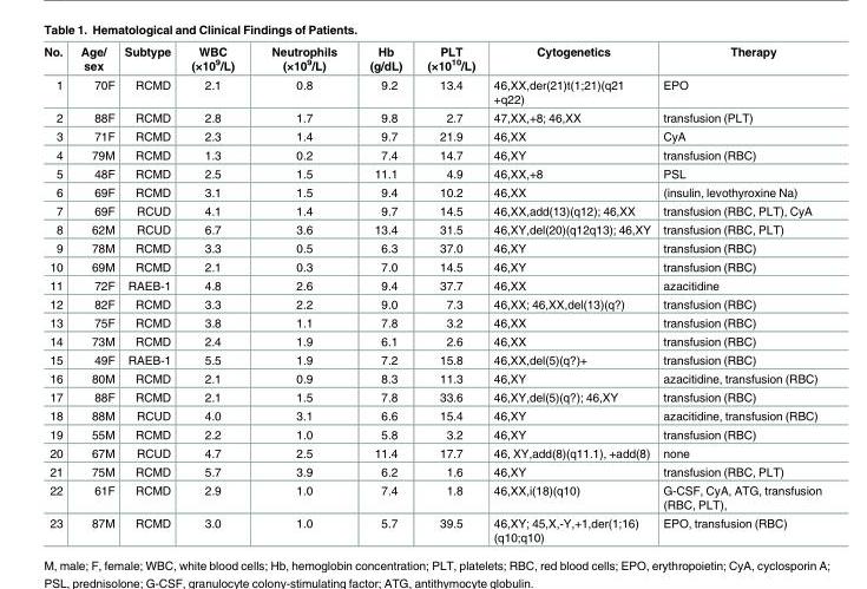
<table><thead><tr><td>No.</td><td>Age/ sex</td><td>Subtype</td><td>WBC (×10<sup>9</sup>/L)</td><td>Neutrophils (×10<sup>9</sup>/L)</td><td>Hb (g/dL)</td><td>PLT (×10<sup>10</sup>/L)</td><td>Cytogenetics</td><td>Therapy</td></tr></thead><tbody><tr><td>1</td><td>70F</td><td>RCMD</td><td>2.1</td><td>0.8</td><td>9.2</td><td>13.4</td><td>46,XX,der(21)t(1;21)(q21 +q22)</td><td>EPO</td></tr><tr><td>2</td><td>88F</td><td>RCMD</td><td>2.8</td><td>1.7</td><td>9.8</td><td>2.7</td><td>47,XX,+8; 46,XX</td><td>transfusion (PLT)</td></tr><tr><td>3</td><td>71F</td><td>RCMD</td><td>2.3</td><td>1.4</td><td>9.7</td><td>21.9</td><td>46,XX</td><td>CyA</td></tr><tr><td>4</td><td>79M</td><td>RCMD</td><td>1.3</td><td>0.2</td><td>7.4</td><td>14.7</td><td>46,XY</td><td>transfusion (RBC)</td></tr><tr><td>5</td><td>48F</td><td>RCMD</td><td>2.5</td><td>1.5</td><td>11.1</td><td>4.9</td><td>46,XX,+8</td><td>PSL</td></tr><tr><td>6</td><td>69F</td><td>RCMD</td><td>3.1</td><td>1.5</td><td>9.4</td><td>10.2</td><td>46,XX</td><td>(insulin, levothyroxine Na)</td></tr><tr><td>7</td><td>69F</td><td>RCUD</td><td>4.1</td><td>1.4</td><td>9.7</td><td>14.5</td><td>46,XX,add(13)(q12); 46,XX</td><td>transfusion (RBC, PLT), CyA</td></tr><tr><td>8</td><td>62M</td><td>RCUD</td><td>6.7</td><td>3.6</td><td>13.4</td><td>31.5</td><td>46,XY,del(20)(q12q13); 46,XY</td><td>transfusion (RBC, PLT)</td></tr><tr><td>9</td><td>78M</td><td>RCMD</td><td>3.3</td><td>0.5</td><td>6.3</td><td>37.0</td><td>46,XY</td><td>transfusion (RBC)</td></tr><tr><td>10</td><td>69M</td><td>RCMD</td><td>2.1</td><td>0.3</td><td>7.0</td><td>14.5</td><td>46,XY</td><td>transfusion (RBC)</td></tr><tr><td>11</td><td>72F</td><td>RAEB-1</td><td>4.8</td><td>2.6</td><td>9.4</td><td>37.7</td><td>46,XX</td><td>azacitidine</td></tr><tr><td>12</td><td>82F</td><td>RCMD</td><td>3.3</td><td>2.2</td><td>9.0</td><td>7.3</td><td>46,XX; 46,XX,del(13)(q?)</td><td>transfusion (RBC)</td></tr><tr><td>13</td><td>75F</td><td>RCMD</td><td>3.8</td><td>1.1</td><td>7.8</td><td>3.2</td><td>46,XX</td><td>transfusion (RBC)</td></tr><tr><td>14</td><td>73M</td><td>RCMD</td><td>2.4</td><td>1.9</td><td>6.1</td><td>2.6</td><td>46,XX</td><td>transfusion (RBC)</td></tr><tr><td>15</td><td>49F</td><td>RAEB-1</td><td>5.5</td><td>1.9</td><td>7.2</td><td>15.8</td><td>46,XX,del(5)(q?)+</td><td>transfusion (RBC)</td></tr><tr><td>16</td><td>80M</td><td>RCMD</td><td>2.1</td><td>0.9</td><td>8.3</td><td>11.3</td><td>46,XY</td><td>azacitidine, transfusion (RBC)</td></tr><tr><td>17</td><td>88F</td><td>RCMD</td><td>2.1</td><td>1.5</td><td>7.8</td><td>33.6</td><td>46,XY,del(5)(q?); 46,XY</td><td>transfusion (RBC)</td></tr><tr><td>18</td><td>88M</td><td>RCUD</td><td>4.0</td><td>3.1</td><td>6.6</td><td>15.4</td><td>46,XY</td><td>azacitidine, transfusion (RBC)</td></tr><tr><td>19</td><td>55M</td><td>RCMD</td><td>2.2</td><td>1.0</td><td>5.8</td><td>3.2</td><td>46,XY</td><td>transfusion (RBC)</td></tr><tr><td>20</td><td>67M</td><td>RCUD</td><td>4.7</td><td>2.5</td><td>11.4</td><td>17.7</td><td>46, XY,add(8)(q11.1), +add(8)</td><td>none</td></tr><tr><td>21</td><td>75M</td><td>RCMD</td><td>5.7</td><td>3.9</td><td>6.2</td><td>1.6</td><td>46,XY</td><td>transfusion (RBC, PLT)</td></tr><tr><td>22</td><td>61F</td><td>RCMD</td><td>2.9</td><td>1.0</td><td>7.4</td><td>1.8</td><td>46,XX,i(18)(q10)</td><td>G-CSF, CyA, ATG, transfusion (RBC, PLT),</td></tr><tr><td>23</td><td>87M</td><td>RCMD</td><td>3.0</td><td>1.0</td><td>5.7</td><td>39.5</td><td>46,XY; 45,X,-Y,+1,der(1;16) (q10;q10)</td><td>EPO, transfusion (RBC)</td></tr></tbody></table>